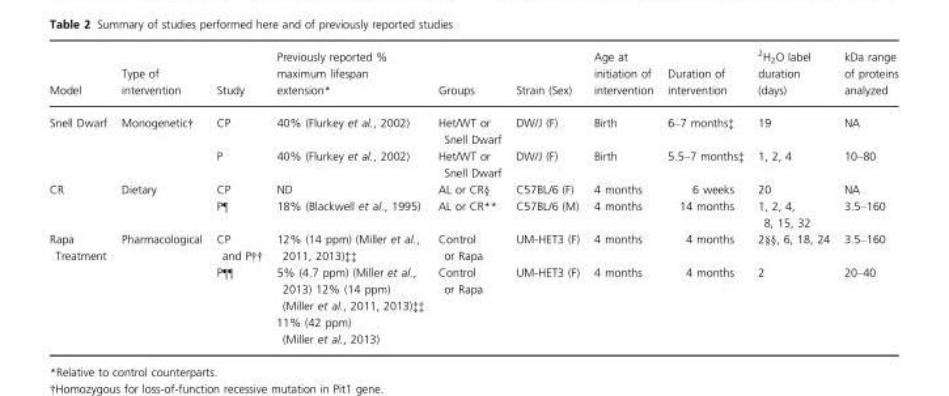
<table><thead><tr><td>Model</td><td>Type of intervention</td><td>Study</td><td>Previously reported % maximum lifespan extension*</td><td>Groups</td><td>Strain (Sex)</td><td>Age at initiation of intervention</td><td>Duration of intervention</td><td><sup>2</sup>H<sub>2</sub>O label duration (days)</td><td>kDa range of proteins analyzed</td></tr></thead><tbody><tr><td rowspan="2">Snell Dwarf</td><td>Monogenetic†</td><td>CP</td><td>40% (Flurkey et al., 2002)</td><td>Het/WT or Snell Dwarf</td><td>DW/J (F)</td><td>Birth</td><td>6–7 months‡</td><td>19</td><td>NA</td></tr><tr><td></td><td>P</td><td>40% (Flurkey et al., 2002)</td><td>Het/WT or Snell Dwarf</td><td>DW/J (F)</td><td>Birth</td><td>5.5–7 months‡</td><td>1, 2, 4</td><td>10–80</td></tr><tr><td rowspan="2">CR</td><td>Dietary</td><td>CP</td><td>ND</td><td>AL or CR§</td><td>C57BL/6 (F)</td><td>4 months</td><td>6 weeks</td><td>20</td><td>NA</td></tr><tr><td></td><td>P¶</td><td>18% (Blackwell et al., 1995)</td><td>AL or CR**</td><td>C57BL/6 (M)</td><td>4 months</td><td>14 months</td><td>1, 2, 4, 8, 15, 32</td><td>3.5–160</td></tr><tr><td rowspan="2">Rapa Treatment</td><td>Pharmacological</td><td>CP and P††</td><td>12% (14 ppm) (Miller et al., 2011, 2013)‡‡</td><td>Control or Rapa</td><td>UM-HET3 (F)</td><td>4 months</td><td>4 months</td><td>2§§, 6, 18, 24</td><td>3.5–160</td></tr><tr><td></td><td>P¶¶</td><td>5% (4.7 ppm) (Miller et al., 2013) 12% (14 ppm) (Miller et al., 2011, 2013)‡‡ 11% (42 ppm) (Miller et al., 2013)</td><td>Control or Rapa</td><td>UM-HET3 (F)</td><td>4 months</td><td>4 months</td><td>2</td><td>20–40</td></tr></tbody></table>